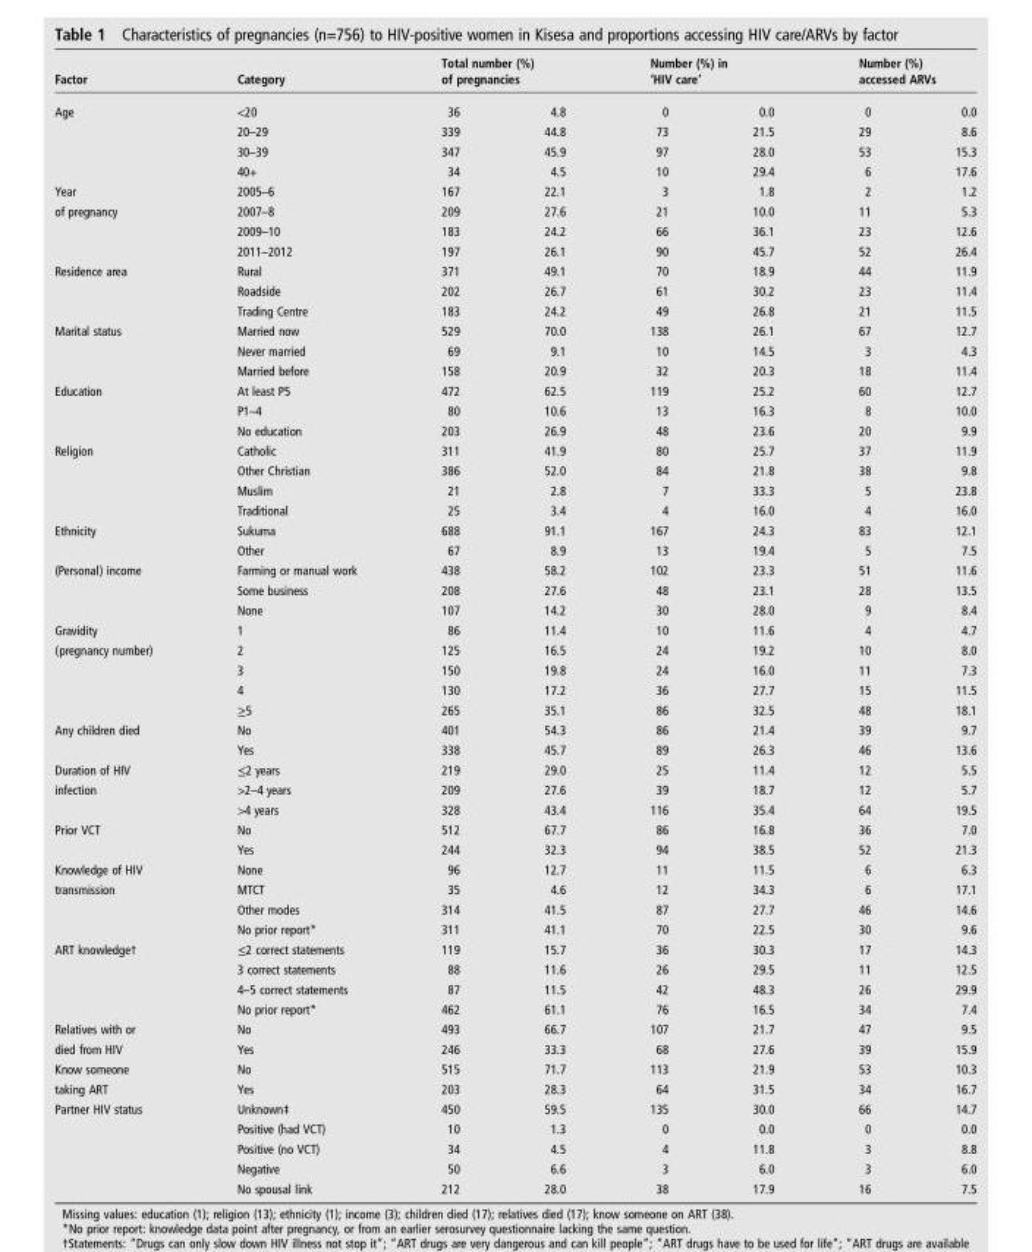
<table><thead><tr><td rowspan="2">Factor Age</td><td rowspan="2">Category &lt;20</td><td colspan="2">Total number (%) of pregnancies</td><td colspan="2">Number (%) in ‘HIV care’</td><td colspan="2">Number (%) accessed ARVs</td></tr><tr><td>36</td><td>4.8</td><td>0</td><td>0.0</td><td>0</td><td>0.0</td></tr></thead><tbody><tr><td></td><td>20–29</td><td>339</td><td>44.8</td><td>73</td><td>21.5</td><td>29</td><td>8.6</td></tr><tr><td></td><td>30–39</td><td>347</td><td>45.9</td><td>97</td><td>28.0</td><td>53</td><td>15.3</td></tr><tr><td></td><td>40+</td><td>34</td><td>4.5</td><td>10</td><td>29.4</td><td>6</td><td>17.6</td></tr><tr><td>Year</td><td>2005–6</td><td>167</td><td>22.1</td><td>3</td><td>1.8</td><td>2</td><td>1.2</td></tr><tr><td rowspan="3">of pregnancy</td><td>2007–8</td><td>209</td><td>27.6</td><td>21</td><td>10.0</td><td>11</td><td>5.3</td></tr><tr><td>2009–10</td><td>183</td><td>24.2</td><td>66</td><td>36.1</td><td>23</td><td>12.6</td></tr><tr><td>2011–2012</td><td>197</td><td>26.1</td><td>90</td><td>45.7</td><td>52</td><td>26.4</td></tr><tr><td rowspan="3">Residence area</td><td>Rural</td><td>371</td><td>49.1</td><td>70</td><td>18.9</td><td>44</td><td>11.9</td></tr><tr><td>Roadside</td><td>202</td><td>26.7</td><td>61</td><td>30.2</td><td>23</td><td>11.4</td></tr><tr><td>Trading Centre</td><td>183</td><td>24.2</td><td>49</td><td>26.8</td><td>21</td><td>11.5</td></tr><tr><td rowspan="3">Marital status</td><td>Married now</td><td>529</td><td>70.0</td><td>138</td><td>26.1</td><td>67</td><td>12.7</td></tr><tr><td>Never married</td><td>69</td><td>9.1</td><td>10</td><td>14.5</td><td>3</td><td>4.3</td></tr><tr><td>Married before</td><td>158</td><td>20.9</td><td>32</td><td>20.3</td><td>18</td><td>11.4</td></tr><tr><td rowspan="3">Education</td><td>At least P5</td><td>472</td><td>62.5</td><td>119</td><td>25.2</td><td>60</td><td>12.7</td></tr><tr><td>P1–4</td><td>80</td><td>10.6</td><td>13</td><td>16.3</td><td>8</td><td>10.0</td></tr><tr><td>No education</td><td>203</td><td>26.9</td><td>48</td><td>23.6</td><td>20</td><td>9.9</td></tr><tr><td rowspan="4">Religion</td><td>Catholic</td><td>311</td><td>41.9</td><td>80</td><td>25.7</td><td>37</td><td>11.9</td></tr><tr><td>Other Christian</td><td>386</td><td>52.0</td><td>84</td><td>21.8</td><td>38</td><td>9.8</td></tr><tr><td>Muslim</td><td>21</td><td>2.8</td><td>7</td><td>33.3</td><td>5</td><td>23.8</td></tr><tr><td>Traditional</td><td>25</td><td>3.4</td><td>4</td><td>16.0</td><td>4</td><td>16.0</td></tr><tr><td rowspan="2">Ethnicity</td><td>Sukuma</td><td>688</td><td>91.1</td><td>167</td><td>24.3</td><td>83</td><td>12.1</td></tr><tr><td>Other</td><td>67</td><td>8.9</td><td>13</td><td>19.4</td><td>5</td><td>7.5</td></tr><tr><td rowspan="3">(Personal) income</td><td>Farming or manual work</td><td>438</td><td>58.2</td><td>102</td><td>23.3</td><td>51</td><td>11.6</td></tr><tr><td>Some business</td><td>208</td><td>27.6</td><td>48</td><td>23.1</td><td>28</td><td>13.5</td></tr><tr><td>None</td><td>107</td><td>14.2</td><td>30</td><td>28.0</td><td>9</td><td>8.4</td></tr><tr><td>Gravidity</td><td>1</td><td>86</td><td>11.4</td><td>10</td><td>11.6</td><td>4</td><td>4.7</td></tr><tr><td rowspan="4">(pregnancy number)</td><td>2</td><td>125</td><td>16.5</td><td>24</td><td>19.2</td><td>10</td><td>8.0</td></tr><tr><td>3</td><td>150</td><td>19.8</td><td>24</td><td>16.0</td><td>11</td><td>7.3</td></tr><tr><td>4</td><td>130</td><td>17.2</td><td>36</td><td>27.7</td><td>15</td><td>11.5</td></tr><tr><td>≥5</td><td>265</td><td>35.1</td><td>86</td><td>32.5</td><td>48</td><td>18.1</td></tr><tr><td rowspan="2">Any children died</td><td>No</td><td>401</td><td>54.3</td><td>86</td><td>21.4</td><td>39</td><td>9.7</td></tr><tr><td>Yes</td><td>338</td><td>45.7</td><td>89</td><td>26.3</td><td>46</td><td>13.6</td></tr><tr><td>Duration of HIV</td><td>≤2 years</td><td>219</td><td>29.0</td><td>25</td><td>11.4</td><td>12</td><td>5.5</td></tr><tr><td rowspan="2">infection</td><td>&gt;2–4 years</td><td>209</td><td>27.6</td><td>39</td><td>18.7</td><td>12</td><td>5.7</td></tr><tr><td>&gt;4 years</td><td>328</td><td>43.4</td><td>116</td><td>35.4</td><td>64</td><td>19.5</td></tr><tr><td rowspan="2">Prior VCT</td><td>No</td><td>512</td><td>67.7</td><td>86</td><td>16.8</td><td>36</td><td>7.0</td></tr><tr><td>Yes</td><td>244</td><td>32.3</td><td>94</td><td>38.5</td><td>52</td><td>21.3</td></tr><tr><td>Knowledge of HIV</td><td>None</td><td>96</td><td>12.7</td><td>11</td><td>11.5</td><td>6</td><td>6.3</td></tr><tr><td rowspan="3">transmission</td><td>MTCT</td><td>35</td><td>4.6</td><td>12</td><td>34.3</td><td>6</td><td>17.1</td></tr><tr><td>Other modes</td><td>314</td><td>41.5</td><td>87</td><td>27.7</td><td>46</td><td>14.6</td></tr><tr><td>No prior report*</td><td>311</td><td>41.1</td><td>70</td><td>22.5</td><td>30</td><td>9.6</td></tr><tr><td rowspan="4">ART knowledge†</td><td>≤2 correct statements</td><td>119</td><td>15.7</td><td>36</td><td>30.3</td><td>17</td><td>14.3</td></tr><tr><td>3 correct statements</td><td>88</td><td>11.6</td><td>26</td><td>29.5</td><td>11</td><td>12.5</td></tr><tr><td>4–5 correct statements</td><td>87</td><td>11.5</td><td>42</td><td>48.3</td><td>26</td><td>29.9</td></tr><tr><td>No prior report*</td><td>462</td><td>61.1</td><td>76</td><td>16.5</td><td>34</td><td>7.4</td></tr><tr><td>Relatives with or</td><td>No</td><td>493</td><td>66.7</td><td>107</td><td>21.7</td><td>47</td><td>9.5</td></tr><tr><td>died from HIV</td><td>Yes</td><td>246</td><td>33.3</td><td>68</td><td>27.6</td><td>39</td><td>15.9</td></tr><tr><td>Know someone</td><td>No</td><td>515</td><td>71.7</td><td>113</td><td>21.9</td><td>53</td><td>10.3</td></tr><tr><td>taking ART</td><td>Yes</td><td>203</td><td>28.3</td><td>64</td><td>31.5</td><td>34</td><td>16.7</td></tr><tr><td rowspan="5">Partner HIV status</td><td>Unknown‡</td><td>450</td><td>59.5</td><td>135</td><td>30.0</td><td>66</td><td>14.7</td></tr><tr><td>Positive (had VCT)</td><td>10</td><td>1.3</td><td>0</td><td>0.0</td><td>0</td><td>0.0</td></tr><tr><td>Positive (no VCT)</td><td>34</td><td>4.5</td><td>4</td><td>11.8</td><td>3</td><td>8.8</td></tr><tr><td>Negative</td><td>50</td><td>6.6</td><td>3</td><td>6.0</td><td>3</td><td>6.0</td></tr><tr><td>No spousal link</td><td>212</td><td>28.0</td><td>38</td><td>17.9</td><td>16</td><td>7.5</td></tr></tbody></table>